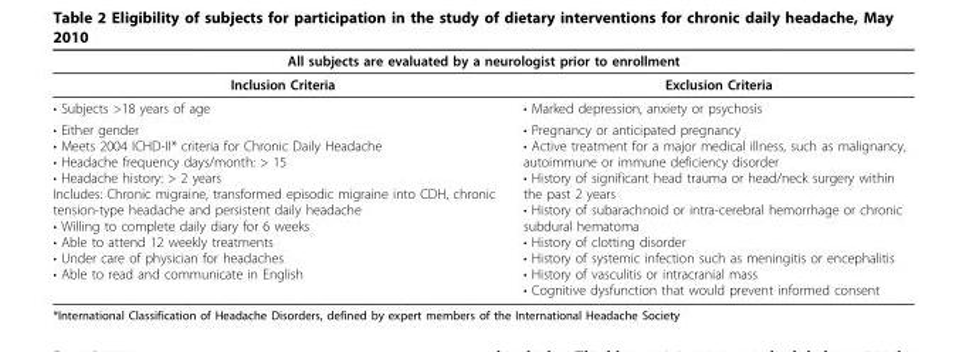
<table><thead><tr><td colspan="2">All subjects are evaluated by a neurologist prior to enrollment</td></tr><tr><td>Inclusion Criteria</td><td>Exclusion Criteria</td></tr></thead><tbody><tr><td>• Subjects &gt;18 years of age</td><td>• Marked depression, anxiety or psychosis</td></tr><tr><td>• Either gender • Meets 2004 ICHD-II* criteria for Chronic Daily Headache • Headache frequency days/month: &gt; 15 • Headache history: &gt; 2 years Includes: Chronic migraine, transformed episodic migraine into CDH, chronic tension-type headache and persistent daily headache • Willing to complete daily diary for 6 weeks • Able to attend 12 weekly treatments • Under care of physician for headaches • Able to read and communicate in English</td><td>• Pregnancy or anticipated pregnancy • Active treatment for a major medical illness, such as malignancy, autoimmune or immune deficiency disorder • History of significant head trauma or head/neck surgery within the past 2 years • History of subarachnoid or intra-cerebral hemorrhage or chronic subdural hematoma • History of clotting disorder • History of systemic infection such as meningitis or encephalitis • History of vasculitis or intracranial mass • Cognitive dysfunction that would prevent informed consent</td></tr></tbody></table>